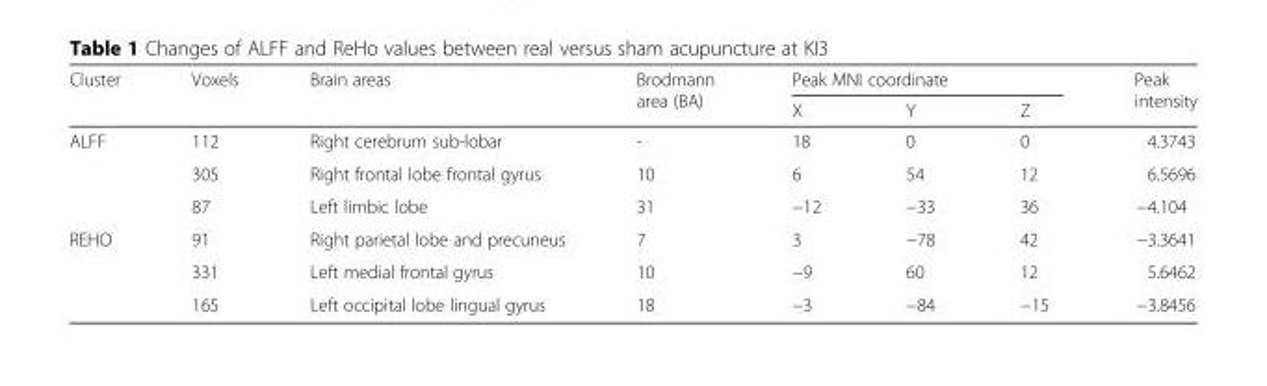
<table><thead><tr><td rowspan="2">Cluster</td><td rowspan="2">Voxels</td><td rowspan="2">Brain areas</td><td rowspan="2">Brodmann area (BA)</td><td colspan="3">Peak MNI coordinate</td><td rowspan="2">Peak intensity</td></tr><tr><td>X</td><td>Y</td><td>Z</td></tr></thead><tbody><tr><td rowspan="3">ALFF</td><td>112</td><td>Right cerebrum sub-lobar</td><td>-</td><td>18</td><td>0</td><td>0</td><td>4.3743</td></tr><tr><td>305</td><td>Right frontal lobe frontal gyrus</td><td>10</td><td>6</td><td>54</td><td>12</td><td>6.5696</td></tr><tr><td>87</td><td>Left limbic lobe</td><td>31</td><td>−12</td><td>−33</td><td>36</td><td>−4.104</td></tr><tr><td rowspan="3">REHO</td><td>91</td><td>Right parietal lobe and precuneus</td><td>7</td><td>3</td><td>−78</td><td>42</td><td>−3.3641</td></tr><tr><td>331</td><td>Left medial frontal gyrus</td><td>10</td><td>−9</td><td>60</td><td>12</td><td>5.6462</td></tr><tr><td>165</td><td>Left occipital lobe lingual gyrus</td><td>18</td><td>−3</td><td>−84</td><td>−15</td><td>−3.8456</td></tr></tbody></table>